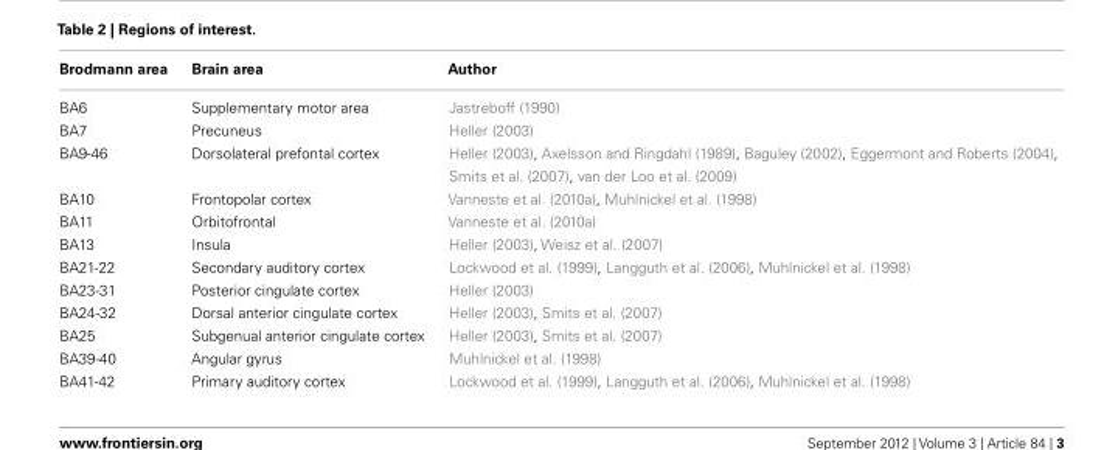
<table><thead><tr><td>Brodmann area</td><td>Brain area</td><td>Author</td></tr></thead><tbody><tr><td>BA6</td><td>Supplementary motor area</td><td>Jastreboff (1990)</td></tr><tr><td>BA7</td><td>Precuneus</td><td>Heller (2003)</td></tr><tr><td>BA9-46</td><td>Dorsolateral prefontal cortex</td><td>Heller (2003), Axelsson and Ringdahl (1989), Baguley (2002), Eggermont and Roberts (2004), Smits et al. (2007), van der Loo et al. (2009)</td></tr><tr><td>BA10</td><td>Frontopolar cortex</td><td>Vanneste et al. (2010a), Muhlnickel et al. (1998)</td></tr><tr><td>BA11</td><td>Orbitofrontal</td><td>Vanneste et al. (2010a)</td></tr><tr><td>BA13</td><td>Insula</td><td>Heller (2003), Weisz et al. (2007)</td></tr><tr><td>BA21-22</td><td>Secondary auditory cortex</td><td>Lockwood et al. (1999), Langguth et al. (2006), Muhlnickel et al. (1998)</td></tr><tr><td>BA23-31</td><td>Posterior cingulate cortex</td><td>Heller (2003)</td></tr><tr><td>BA24-32</td><td>Dorsal anterior cingulate cortex</td><td>Heller (2003), Smits et al. (2007)</td></tr><tr><td>BA25</td><td>Subgenual anterior cingulate cortex</td><td>Heller (2003), Smits et al. (2007)</td></tr><tr><td>BA39-40</td><td>Angular gyrus</td><td>Muhlnickel et al. (1998)</td></tr><tr><td>BA41-42</td><td>Primary auditory cortex</td><td>Lockwood et al. (1999), Langguth et al. (2006), Muhlnickel et al. (1998)</td></tr></tbody></table>